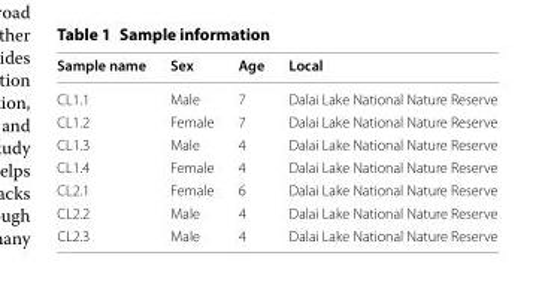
<table><thead><tr><td>Sample name</td><td>Sex</td><td>Age</td><td>Local</td></tr></thead><tbody><tr><td>CL1.1</td><td>Male</td><td>7</td><td>Dalai Lake National Nature Reserve</td></tr><tr><td>CL1.2</td><td>Female</td><td>7</td><td>Dalai Lake National Nature Reserve</td></tr><tr><td>CL1.3</td><td>Male</td><td>4</td><td>Dalai Lake National Nature Reserve</td></tr><tr><td>CL1.4</td><td>Female</td><td>4</td><td>Dalai Lake National Nature Reserve</td></tr><tr><td>CL2.1</td><td>Female</td><td>6</td><td>Dalai Lake National Nature Reserve</td></tr><tr><td>CL2.2</td><td>Male</td><td>4</td><td>Dalai Lake National Nature Reserve</td></tr><tr><td>CL2.3</td><td>Male</td><td>4</td><td>Dalai Lake National Nature Reserve</td></tr></tbody></table>